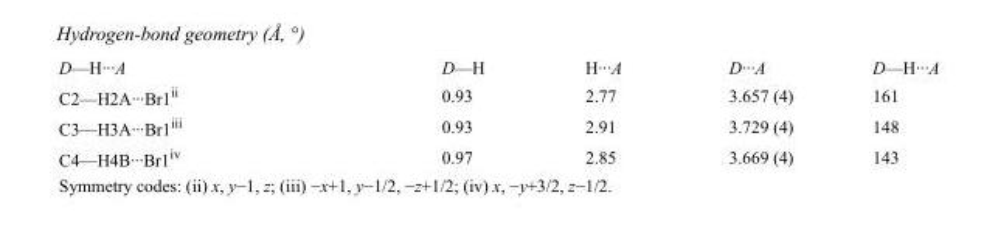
<table><tbody><tr><td>D—H···A</td><td>D—H</td><td>H···A</td><td>D···A</td><td>D—H···A</td></tr><tr><td>C2—H2A···Br1<sup>ii</sup></td><td>0.93</td><td>2.77</td><td>3.657 (4)</td><td>161</td></tr><tr><td>C3—H3A···Br1<sup>iii</sup></td><td>0.93</td><td>2.91</td><td>3.729 (4)</td><td>148</td></tr><tr><td>C4—H4B···Br1<sup>iv</sup></td><td>0.97</td><td>2.85</td><td>3.669 (4)</td><td>143</td></tr></tbody></table>